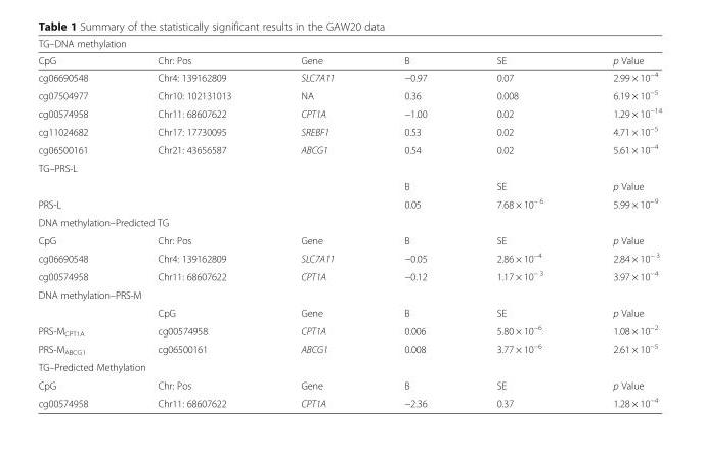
<table><thead><tr><td colspan="6">TG–DNA methylation</td></tr><tr><td>CpG</td><td>Chr: Pos</td><td>Gene</td><td>Β</td><td>SE</td><td>p Value</td></tr></thead><tbody><tr><td>cg06690548</td><td>Chr4: 139162809</td><td>SLC7A11</td><td>−0.97</td><td>0.07</td><td>2.99 × 10<sup>−4</sup></td></tr><tr><td>cg07504977</td><td>Chr10: 102131013</td><td>NA</td><td>0.36</td><td>0.008</td><td>6.19 × 10<sup>−5</sup></td></tr><tr><td>cg00574958</td><td>Chr11: 68607622</td><td>CPT1A</td><td>−1.00</td><td>0.02</td><td>1.29 × 10<sup>−14</sup></td></tr><tr><td>cg11024682</td><td>Chr17: 17730095</td><td>SREBF1</td><td>0.53</td><td>0.02</td><td>4.71 × 10<sup>−5</sup></td></tr><tr><td>cg06500161</td><td>Chr21: 43656587</td><td>ABCG1</td><td>0.54</td><td>0.02</td><td>5.61 × 10<sup>−4</sup></td></tr><tr><td colspan="6">TG–PRS-L</td></tr><tr><td colspan="3"></td><td>Β</td><td>SE</td><td>p Value</td></tr><tr><td colspan="3">PRS-L</td><td>0.05</td><td>7.68 × 10<sup>− 6</sup></td><td>5.99 × 10<sup>−9</sup></td></tr><tr><td colspan="6">DNA methylation–Predicted TG</td></tr><tr><td>CpG</td><td>Chr: Pos</td><td>Gene</td><td>Β</td><td>SE</td><td>p Value</td></tr><tr><td>cg06690548</td><td>Chr4: 139162809</td><td>SLC7A11</td><td>−0.05</td><td>2.86 × 10<sup>−4</sup></td><td>2.84 × 10<sup>− 3</sup></td></tr><tr><td>cg00574958</td><td>Chr11: 68607622</td><td>CPT1A</td><td>−0.12</td><td>1.17 × 10<sup>− 3</sup></td><td>3.97 × 10<sup>−4</sup></td></tr><tr><td colspan="6">DNA methylation–PRS-M</td></tr><tr><td></td><td>CpG</td><td>Gene</td><td>Β</td><td>SE</td><td>p Value</td></tr><tr><td>PRS-M<sub>CPT1A</sub></td><td>cg00574958</td><td>CPT1A</td><td>0.006</td><td>5.80 × 10<sup>−6</sup></td><td>1.08 × 10<sup>−2</sup></td></tr><tr><td>PRS-M<sub>ABCG1</sub></td><td>cg06500161</td><td>ABCG1</td><td>0.008</td><td>3.77 × 10<sup>−6</sup></td><td>2.61 × 10<sup>−5</sup></td></tr><tr><td colspan="6">TG–Predicted Methylation</td></tr><tr><td>CpG</td><td>Chr: Pos</td><td>Gene</td><td>Β</td><td>SE</td><td>p Value</td></tr><tr><td>cg00574958</td><td>Chr11: 68607622</td><td>CPT1A</td><td>−2.36</td><td>0.37</td><td>1.28 × 10<sup>−4</sup></td></tr></tbody></table>